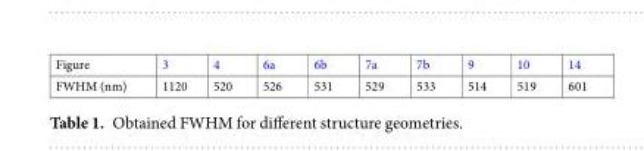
<table><tbody><tr><td>Figure</td><td>3</td><td>4</td><td>6a</td><td>6b</td><td>7a</td><td>7b</td><td>9</td><td>10</td><td>14</td></tr><tr><td>FWHM (nm)</td><td>1120</td><td>520</td><td>526</td><td>531</td><td>529</td><td>533</td><td>514</td><td>519</td><td>601</td></tr></tbody></table>